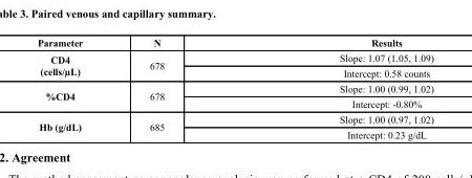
<table><thead><tr><td>Parameter</td><td>N</td><td>Results</td></tr></thead><tbody><tr><td rowspan="2">CD4 (cells/µL)</td><td rowspan="2">678</td><td>Slope: 1.07 (1.05, 1.09)</td></tr><tr><td>Intercept: 0.58 counts</td></tr><tr><td rowspan="2">%CD4</td><td rowspan="2">678</td><td>Slope: 1.00 (0.99, 1.02)</td></tr><tr><td>Intercept: -0.80%</td></tr><tr><td rowspan="2">Hb (g/dL)</td><td rowspan="2">685</td><td>Slope: 1.00 (0.97, 1.02)</td></tr><tr><td>Intercept: 0.23 g/dL</td></tr></tbody></table>